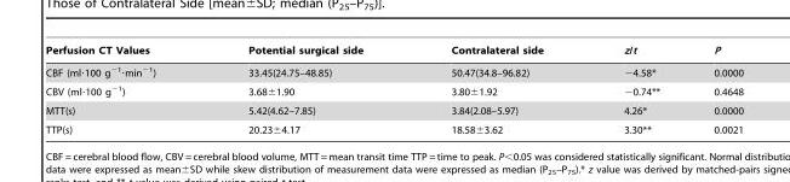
<table><thead><tr><td>Perfusion CT Values</td><td>Potential surgical side</td><td>Contralateral side</td><td>z/t</td><td>P</td></tr></thead><tbody><tr><td>CBF (ml·100 g<sup>−1</sup>·min<sup>−1</sup>)</td><td>33.45(24.75–48.85)</td><td>50.47(34.8–96.82)</td><td>−4.58*</td><td>0.0000</td></tr><tr><td>CBV (ml·100 g<sup>−1</sup>)</td><td>3.68±1.90</td><td>3.80±1.92</td><td>−0.74**</td><td>0.4648</td></tr><tr><td>MTT(s)</td><td>5.42(4.62–7.85)</td><td>3.84(2.08–5.97)</td><td>4.26*</td><td>0.0000</td></tr><tr><td>TTP(s)</td><td>20.23±4.17</td><td>18.58±3.62</td><td>3.30**</td><td>0.0021</td></tr></tbody></table>